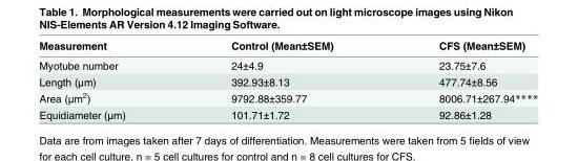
<table><thead><tr><td>Measurement</td><td>Control (Mean±SEM)</td><td>CFS (Mean±SEM)</td></tr></thead><tbody><tr><td>Myotube number</td><td>24±4.9</td><td>23.75±7.6</td></tr><tr><td>Length (μm)</td><td>392.93±8.13</td><td>477.74±8.56</td></tr><tr><td>Area (μm<sup>2</sup>)</td><td>9792.88±359.77</td><td>8006.71±267.94****</td></tr><tr><td>Equidiameter (μm)</td><td>101.71±1.72</td><td>92.86±1.28</td></tr></tbody></table>